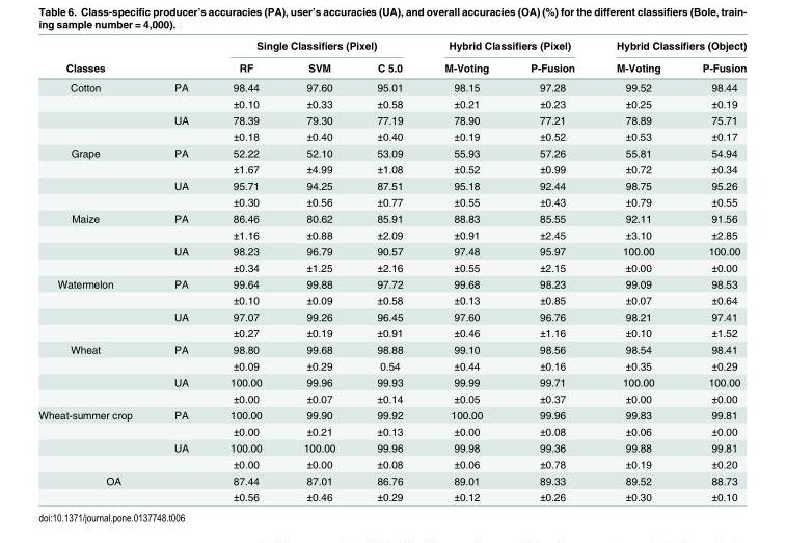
<table><thead><tr><td rowspan="2">Classes</td><td rowspan="2"></td><td colspan="3">Single Classifiers (Pixel)</td><td colspan="2">Hybrid Classifiers (Pixel)</td><td colspan="2">Hybrid Classifiers (Object)</td></tr><tr><td>RF</td><td>SVM</td><td>C 5.0</td><td>M-Voting</td><td>P-Fusion</td><td>M-Voting</td><td>P-Fusion</td></tr></thead><tbody><tr><td rowspan="4">Cotton</td><td>PA</td><td>98.44</td><td>97.60</td><td>95.01</td><td>98.15</td><td>97.28</td><td>99.52</td><td>98.44</td></tr><tr><td></td><td>±0.10</td><td>±0.33</td><td>±0.58</td><td>±0.21</td><td>±0.23</td><td>±0.25</td><td>±0.19</td></tr><tr><td>UA</td><td>78.39</td><td>79.30</td><td>77.19</td><td>78.90</td><td>77.21</td><td>78.89</td><td>75.71</td></tr><tr><td></td><td>±0.18</td><td>±0.40</td><td>±0.40</td><td>±0.19</td><td>±0.52</td><td>±0.53</td><td>±0.17</td></tr><tr><td rowspan="4">Grape</td><td>PA</td><td>52.22</td><td>52.10</td><td>53.09</td><td>55.93</td><td>57.26</td><td>55.81</td><td>54.94</td></tr><tr><td></td><td>±1.67</td><td>±4.99</td><td>±1.08</td><td>±0.52</td><td>±0.99</td><td>±0.72</td><td>±0.34</td></tr><tr><td>UA</td><td>95.71</td><td>94.25</td><td>87.51</td><td>95.18</td><td>92.44</td><td>98.75</td><td>95.26</td></tr><tr><td></td><td>±0.30</td><td>±0.56</td><td>±0.77</td><td>±0.55</td><td>±0.43</td><td>±0.79</td><td>±0.55</td></tr><tr><td rowspan="4">Maize</td><td>PA</td><td>86.46</td><td>80.62</td><td>85.91</td><td>88.83</td><td>85.55</td><td>92.11</td><td>91.56</td></tr><tr><td></td><td>±1.16</td><td>±0.88</td><td>±2.09</td><td>±0.91</td><td>±2.45</td><td>±3.10</td><td>±2.85</td></tr><tr><td>UA</td><td>98.23</td><td>96.79</td><td>90.57</td><td>97.48</td><td>95.97</td><td>100.00</td><td>100.00</td></tr><tr><td></td><td>±0.34</td><td>±1.25</td><td>±2.16</td><td>±0.55</td><td>±2.15</td><td>±0.00</td><td>±0.00</td></tr><tr><td rowspan="4">Watermelon</td><td>PA</td><td>99.64</td><td>99.88</td><td>97.72</td><td>99.68</td><td>98.23</td><td>99.09</td><td>98.53</td></tr><tr><td></td><td>±0.10</td><td>±0.09</td><td>±0.58</td><td>±0.13</td><td>±0.85</td><td>±0.07</td><td>±0.64</td></tr><tr><td>UA</td><td>97.07</td><td>99.26</td><td>96.45</td><td>97.60</td><td>96.76</td><td>98.21</td><td>97.41</td></tr><tr><td></td><td>±0.27</td><td>±0.19</td><td>±0.91</td><td>±0.46</td><td>±1.16</td><td>±0.10</td><td>±1.52</td></tr><tr><td rowspan="4">Wheat</td><td>PA</td><td>98.80</td><td>99.68</td><td>98.88</td><td>99.10</td><td>98.56</td><td>98.54</td><td>98.41</td></tr><tr><td></td><td>±0.09</td><td>±0.29</td><td>0.54</td><td>±0.44</td><td>±0.16</td><td>±0.35</td><td>±0.29</td></tr><tr><td>UA</td><td>100.00</td><td>99.96</td><td>99.93</td><td>99.99</td><td>99.71</td><td>100.00</td><td>100.00</td></tr><tr><td></td><td>±0.00</td><td>±0.07</td><td>±0.14</td><td>±0.05</td><td>±0.37</td><td>±0.00</td><td>±0.00</td></tr><tr><td rowspan="4">Wheat-summer crop</td><td>PA</td><td>100.00</td><td>99.90</td><td>99.92</td><td>100.00</td><td>99.96</td><td>99.83</td><td>99.81</td></tr><tr><td></td><td>±0.00</td><td>±0.21</td><td>±0.13</td><td>±0.00</td><td>±0.08</td><td>±0.06</td><td>±0.00</td></tr><tr><td>UA</td><td>100.00</td><td>100.00</td><td>99.96</td><td>99.98</td><td>99.36</td><td>99.88</td><td>99.81</td></tr><tr><td></td><td>±0.00</td><td>±0.00</td><td>±0.08</td><td>±0.06</td><td>±0.78</td><td>±0.19</td><td>±0.20</td></tr><tr><td rowspan="2" colspan="2">OA</td><td>87.44</td><td>87.01</td><td>86.76</td><td>89.01</td><td>89.33</td><td>89.52</td><td>88.73</td></tr><tr><td>±0.56</td><td>±0.46</td><td>±0.29</td><td>±0.12</td><td>±0.26</td><td>±0.30</td><td>±0.10</td></tr></tbody></table>